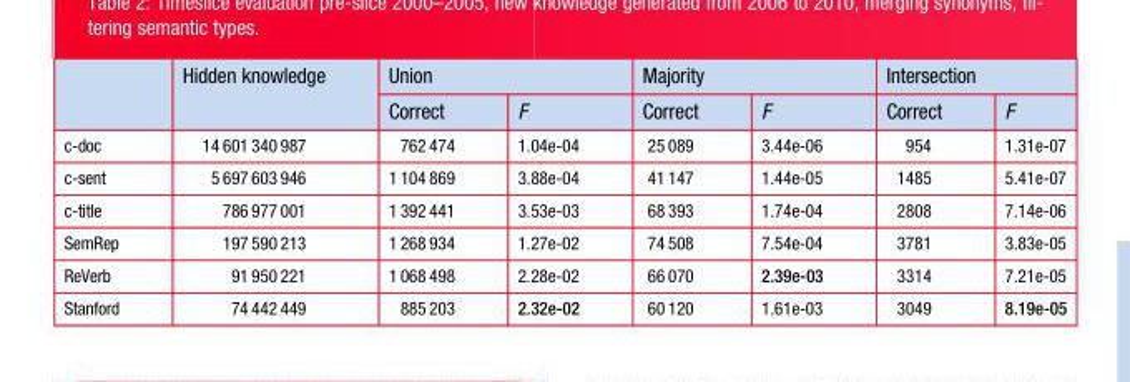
<table><thead><tr><td rowspan="2"></td><td rowspan="2">Hidden knowledge</td><td colspan="2">Union</td><td colspan="2">Majority</td><td colspan="2">Intersection</td></tr><tr><td>Correct</td><td>F</td><td>Correct</td><td>F</td><td>Correct</td><td>F</td></tr></thead><tbody><tr><td>c-doc</td><td>14 601 340 987</td><td>762 474</td><td>1.04e-04</td><td>25 089</td><td>3.44e-06</td><td>954</td><td>1.31e-07</td></tr><tr><td>c-sent</td><td>5 697 603 946</td><td>1 104 869</td><td>3.88e-04</td><td>41 147</td><td>1.44e-05</td><td>1485</td><td>5.41e-07</td></tr><tr><td>c-title</td><td>786 977 001</td><td>1 392 441</td><td>3.53e-03</td><td>68 393</td><td>1.74e-04</td><td>2808</td><td>7.14e-06</td></tr><tr><td>SemRep</td><td>197 590 213</td><td>1 268 934</td><td>1.27e-02</td><td>74 508</td><td>7.54e-04</td><td>3781</td><td>3.83e-05</td></tr><tr><td>ReVerb</td><td>91 950 221</td><td>1 068 498</td><td>2.28e-02</td><td>66 070</td><td>2.39e-03</td><td>3314</td><td>7.21e-05</td></tr><tr><td>Stanford</td><td>74 442 449</td><td>885 203</td><td>2.32e-02</td><td>60 120</td><td>1.61e-03</td><td>3049</td><td>8.19e-05</td></tr></tbody></table>